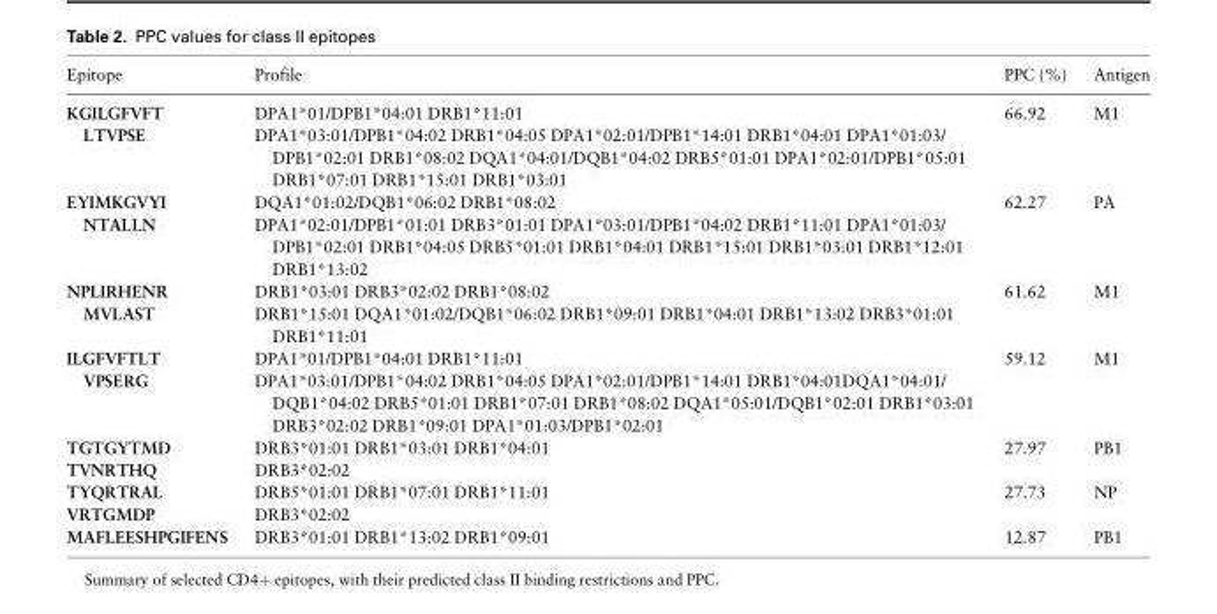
<table><thead><tr><td>Epitope</td><td>Profile</td><td>PPC (%)</td><td>Antigen</td></tr></thead><tbody><tr><td>KGILGFVFT</td><td>DPA1*01/DPB1*04:01 DRB1*11:01</td><td>66.92</td><td>M1</td></tr><tr><td>LTVPSE</td><td>DPA1*03:01/DPB1*04:02 DRB1*04:05 DPA1*02:01/DPB1*14:01 DRB1*04:01 DPA1*01:03/ DPB1*02:01 DRB1*08:02 DQA1*04:01/DQB1*04:02 DRB5*01:01 DPA1*02:01/DPB1*05:01 DRB1*07:01 DRB1*15:01 DRB1*03:01</td><td></td><td></td></tr><tr><td>EYIMKGVYI</td><td>DQA1*01:02/DQB1*06:02 DRB1*08:02</td><td>62.27</td><td>PA</td></tr><tr><td>NTALLN</td><td>DPA1*02:01/DPB1*01:01 DRB3*01:01 DPA1*03:01/DPB1*04:02 DRB1*11:01 DPA1*01:03/ DPB1*02:01 DRB1*04:05 DRB5*01:01 DRB1*04:01 DRB1*15:01 DRB1*03:01 DRB1*12:01 DRB1*13:02</td><td></td><td></td></tr><tr><td>NPLIRHENR</td><td>DRB1*03:01 DRB3*02:02 DRB1*08:02</td><td>61.62</td><td>M1</td></tr><tr><td>MVLAST</td><td>DRB1*15:01 DQA1*01:02/DQB1*06:02 DRB1*09:01 DRB1*04:01 DRB1*13:02 DRB3*01:01 DRB1*11:01</td><td></td><td></td></tr><tr><td>ILGFVFTLT</td><td>DPA1*01/DPB1*04:01 DRB1*11:01</td><td>59.12</td><td>M1</td></tr><tr><td>VPSERG</td><td>DPA1*03:01/DPB1*04:02 DRB1*04:05 DPA1*02:01/DPB1*14:01 DRB1*04:01DQA1*04:01/ DQB1*04:02 DRB5*01:01 DRB1*07:01 DRB1*08:02 DQA1*05:01/DQB1*02:01 DRB1*03:01 DRB3*02:02 DRB1*09:01 DPA1*01:03/DPB1*02:01</td><td></td><td></td></tr><tr><td>TGTGYTMD</td><td>DRB3*01:01 DRB1*03:01 DRB1*04:01</td><td>27.97</td><td>PB1</td></tr><tr><td>TVNRTHQ</td><td>DRB3*02:02</td><td></td><td></td></tr><tr><td>TYQRTRAL</td><td>DRB5*01:01 DRB1*07:01 DRB1*11:01</td><td>27.73</td><td>NP</td></tr><tr><td>VRTGMDP</td><td>DRB3*02:02</td><td></td><td></td></tr><tr><td>MAFLEESHPGIFENS</td><td>DRB3*01:01 DRB1*13:02 DRB1*09:01</td><td>12.87</td><td>PB1</td></tr></tbody></table>